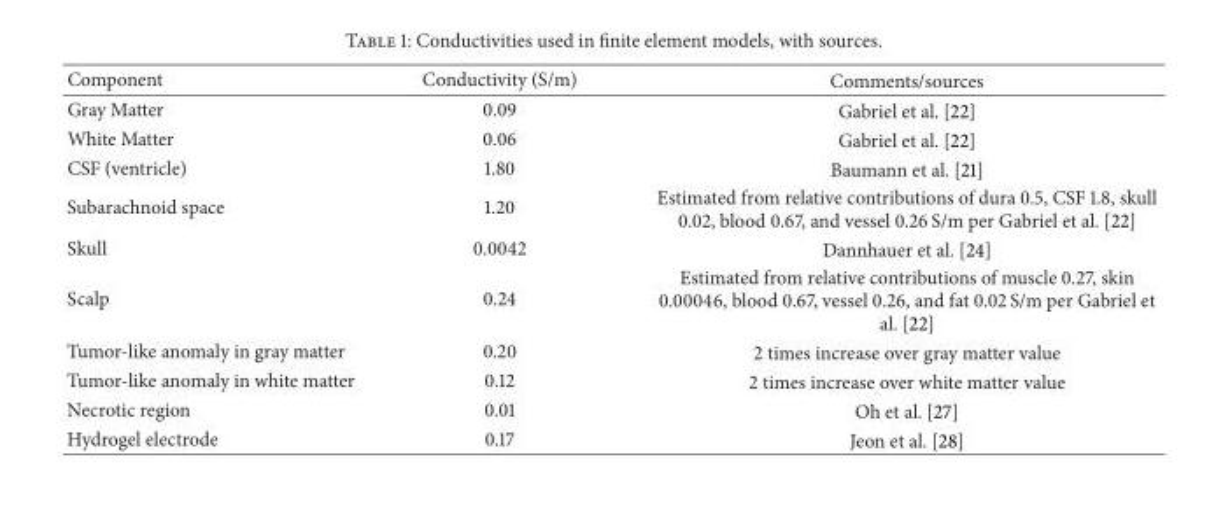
<table><thead><tr><td>Component</td><td>Conductivity (S/m)</td><td>Comments/sources</td></tr></thead><tbody><tr><td>Gray Matter</td><td>0.09</td><td>Gabriel et al. [22]</td></tr><tr><td>White Matter</td><td>0.06</td><td>Gabriel et al. [22]</td></tr><tr><td>CSF (ventricle)</td><td>1.80</td><td>Baumann et al. [21]</td></tr><tr><td>Subarachnoid space</td><td>1.20</td><td>Estimated from relative contributions of dura 0.5, CSF 1.8, skull 0.02, blood 0.67, and vessel 0.26 S/m per Gabriel et al. [22]</td></tr><tr><td>Skull</td><td>0.0042</td><td>Dannhauer et al. [24]</td></tr><tr><td>Scalp</td><td>0.24</td><td>Estimated from relative contributions of muscle 0.27, skin 0.00046, blood 0.67, vessel 0.26, and fat 0.02 S/m per Gabriel et al. [22]</td></tr><tr><td>Tumor-like anomaly in gray matter</td><td>0.20</td><td>2 times increase over gray matter value</td></tr><tr><td>Tumor-like anomaly in white matter</td><td>0.12</td><td>2 times increase over white matter value</td></tr><tr><td>Necrotic region</td><td>0.01</td><td>Oh et al. [27]</td></tr><tr><td>Hydrogel electrode</td><td>0.17</td><td>Jeon et al. [28]</td></tr></tbody></table>